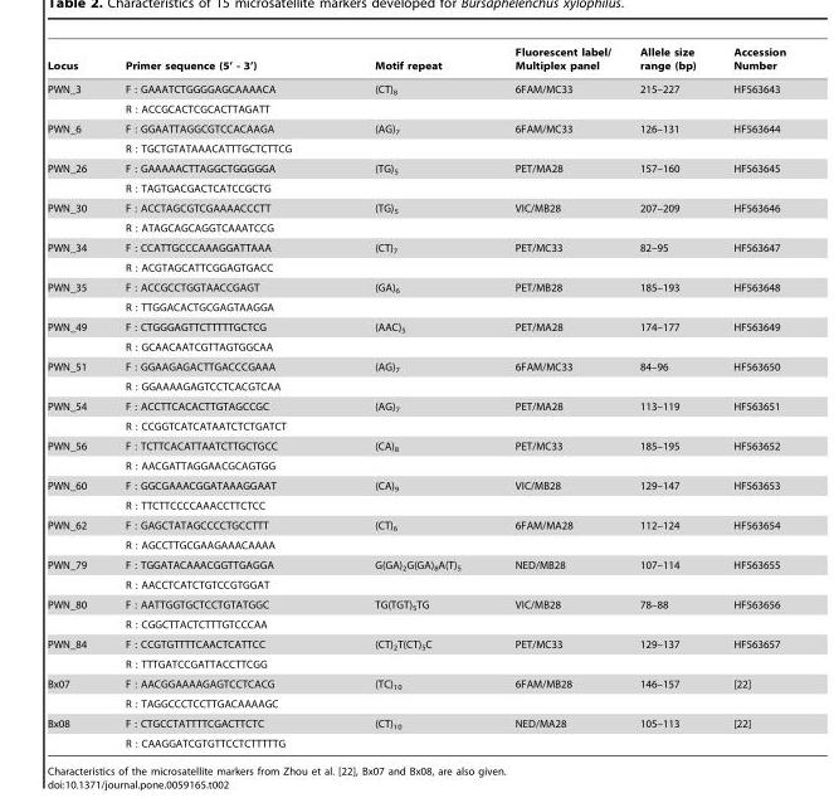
<table><thead><tr><td>Locus</td><td>Primer sequence (5’ - 3’)</td><td>Motif repeat</td><td>Fluorescent label/ Multiplex panel</td><td>Allele size range (bp)</td><td>Accession Number</td></tr></thead><tbody><tr><td rowspan="2">PWN_3</td><td>F : GAAATCTGGGGAGCAAAACA</td><td>(CT)<sub>8</sub></td><td>6FAM/MC33</td><td>215–227</td><td>HF563643</td></tr><tr><td>R : ACCGCACTCGCACTTAGATT</td><td></td><td></td><td></td><td></td></tr><tr><td rowspan="2">PWN_6</td><td>F : GGAATTAGGCGTCCACAAGA</td><td>(AG)<sub>7</sub></td><td>6FAM/MC33</td><td>126–131</td><td>HF563644</td></tr><tr><td>R : TGCTGTATAAACATTTGCTCTTCG</td><td></td><td></td><td></td><td></td></tr><tr><td rowspan="2">PWN_26</td><td>F : GAAAAACTTAGGCTGGGGGA</td><td>(TG)<sub>5</sub></td><td>PET/MA28</td><td>157–160</td><td>HF563645</td></tr><tr><td>R : TAGTGACGACTCATCCGCTG</td><td></td><td></td><td></td><td></td></tr><tr><td rowspan="2">PWN_30</td><td>F : ACCTAGCGTCGAAAACCCTT</td><td>(TG)<sub>5</sub></td><td>VIC/MB28</td><td>207–209</td><td>HF563646</td></tr><tr><td>R : ATAGCAGCAGGTCAAATCCG</td><td></td><td></td><td></td><td></td></tr><tr><td rowspan="2">PWN_34</td><td>F : CCATTGCCCAAAGGATTAAA</td><td>(CT)<sub>7</sub></td><td>PET/MC33</td><td>82–95</td><td>HF563647</td></tr><tr><td>R : ACGTAGCATTCGGAGTGACC</td><td></td><td></td><td></td><td></td></tr><tr><td rowspan="2">PWN_35</td><td>F : ACCGCCTGGTAACCGAGT</td><td>(GA)<sub>6</sub></td><td>PET/MB28</td><td>185–193</td><td>HF563648</td></tr><tr><td>R : TTGGACACTGCGAGTAAGGA</td><td></td><td></td><td></td><td></td></tr><tr><td rowspan="2">PWN_49</td><td>F : CTGGGAGTTCTTTTTGCTCG</td><td>(AAC)<sub>5</sub></td><td>PET/MA28</td><td>174–177</td><td>HF563649</td></tr><tr><td>R : GCAACAATCGTTAGTGGCAA</td><td></td><td></td><td></td><td></td></tr><tr><td rowspan="2">PWN_51</td><td>F : GGAAGAGACTTGACCCGAAA</td><td>(AG)<sub>7</sub></td><td>6FAM/MC33</td><td>84–96</td><td>HF563650</td></tr><tr><td>R : GGAAAAGAGTCCTCACGTCAA</td><td></td><td></td><td></td><td></td></tr><tr><td rowspan="2">PWN_54</td><td>F : ACCTTCACACTTGTAGCCGC</td><td>(AG)<sub>7</sub></td><td>PET/MA28</td><td>113–119</td><td>HF563651</td></tr><tr><td>R : CCGGTCATCATAATCTCTGATCT</td><td></td><td></td><td></td><td></td></tr><tr><td rowspan="2">PWN_56</td><td>F : TCTTCACATTAATCTTGCTGCC</td><td>(CA)<sub>8</sub></td><td>PET/MC33</td><td>185–195</td><td>HF563652</td></tr><tr><td>R : AACGATTAGGAACGCAGTGG</td><td></td><td></td><td></td><td></td></tr><tr><td rowspan="2">PWN_60</td><td>F : GGCGAAACGGATAAAGGAAT</td><td>(CA)<sub>9</sub></td><td>VIC/MB28</td><td>129–147</td><td>HF563653</td></tr><tr><td>R : TTCTTCCCCAAACCTTCTCC</td><td></td><td></td><td></td><td></td></tr><tr><td rowspan="2">PWN_62</td><td>F : GAGCTATAGCCCCTGCCTTT</td><td>(CT)<sub>6</sub></td><td>6FAM/MA28</td><td>112–124</td><td>HF563654</td></tr><tr><td>R : AGCCTTGCGAAGAAACAAAA</td><td></td><td></td><td></td><td></td></tr><tr><td rowspan="2">PWN_79</td><td>F : TGGATACAAACGGTTGAGGA</td><td>G(GA)<sub>2</sub>G(GA)<sub>8</sub>A(T)<sub>5</sub></td><td>NED/MB28</td><td>107–114</td><td>HF563655</td></tr><tr><td>R : AACCTCATCTGTCCGTGGAT</td><td></td><td></td><td></td><td></td></tr><tr><td rowspan="2">PWN_80</td><td>F : AATTGGTGCTCCTGTATGGC</td><td>TG(TGT)<sub>5</sub>TG</td><td>VIC/MB28</td><td>78–88</td><td>HF563656</td></tr><tr><td>R : CGGCTTACTCTTTGTCCCAA</td><td></td><td></td><td></td><td></td></tr><tr><td rowspan="2">PWN_84</td><td>F : CCGTGTTTTCAACTCATTCC</td><td>(CT)<sub>2</sub>T(CT)<sub>5</sub>C</td><td>PET/MC33</td><td>129–137</td><td>HF563657</td></tr><tr><td>R : TTTGATCCGATTACCTTCGG</td><td></td><td></td><td></td><td></td></tr><tr><td rowspan="2">Bx07</td><td>F : AACGGAAAAGAGTCCTCACG</td><td>(TC)<sub>10</sub></td><td>6FAM/MB28</td><td>146–157</td><td>[22]</td></tr><tr><td>R : TAGGCCCTCCTTGACAAAAGC</td><td></td><td></td><td></td><td></td></tr><tr><td rowspan="2">Bx08</td><td>F : CTGCCTATTTTCGACTTCTC</td><td>(CT)<sub>10</sub></td><td>NED/MA28</td><td>105–113</td><td>[22]</td></tr><tr><td>R : CAAGGATCGTGTTCCTCTTTTTG</td><td></td><td></td><td></td><td></td></tr></tbody></table>